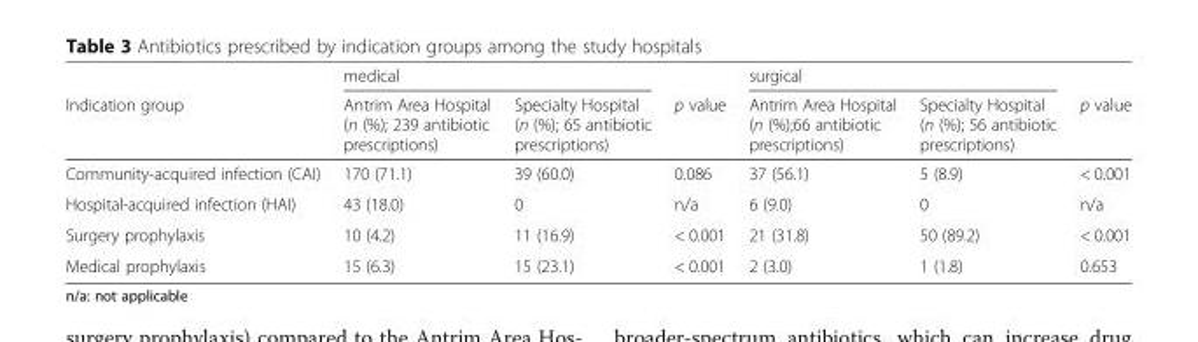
<table><thead><tr><td rowspan="2">Indication group</td><td colspan="2">medical</td><td rowspan="2">p value</td><td colspan="2">surgical</td><td rowspan="2">p value</td></tr><tr><td>Antrim Area Hospital (n (%); 239 antibiotic prescriptions)</td><td>Specialty Hospital (n (%); 65 antibiotic prescriptions)</td><td>Antrim Area Hospital (n (%);66 antibiotic prescriptions)</td><td>Specialty Hospital (n (%); 56 antibiotic prescriptions)</td></tr></thead><tbody><tr><td>Community-acquired infection (CAI)</td><td>170 (71.1)</td><td>39 (60.0)</td><td>0.086</td><td>37 (56.1)</td><td>5 (8.9)</td><td>&lt; 0.001</td></tr><tr><td>Hospital-acquired infection (HAI)</td><td>43 (18.0)</td><td>0</td><td>n/a</td><td>6 (9.0)</td><td>0</td><td>n/a</td></tr><tr><td>Surgery prophylaxis</td><td>10 (4.2)</td><td>11 (16.9)</td><td>&lt; 0.001</td><td>21 (31.8)</td><td>50 (89.2)</td><td>&lt; 0.001</td></tr><tr><td>Medical prophylaxis</td><td>15 (6.3)</td><td>15 (23.1)</td><td>&lt; 0.001</td><td>2 (3.0)</td><td>1 (1.8)</td><td>0.653</td></tr></tbody></table>